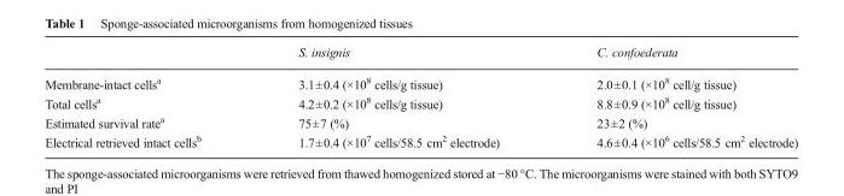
<table><thead><tr><td></td><td>S. insignis</td><td>C. confoederata</td></tr></thead><tbody><tr><td>Membrane-intact cells<sup>a</sup></td><td>3.1±0.4 (×10<sup>8</sup> cells/g tissue)</td><td>2.0±0.1 (×10<sup>8</sup> cell/g tissue)</td></tr><tr><td>Total cells<sup>a</sup></td><td>4.2±0.2 (×10<sup>8</sup> cells/g tissue)</td><td>8.8±0.9 (×10<sup>8</sup> cell/g tissue)</td></tr><tr><td>Estimated survival rate<sup>a</sup></td><td>75±7 (%)</td><td>23±2 (%)</td></tr><tr><td>Electrical retrieved intact cells<sup>b</sup></td><td>1.7±0.4 (×10<sup>7</sup> cells/58.5 cm<sup>2</sup> electrode)</td><td>4.6±0.4 (×10<sup>6</sup> cells/58.5 cm<sup>2</sup> electrode)</td></tr></tbody></table>